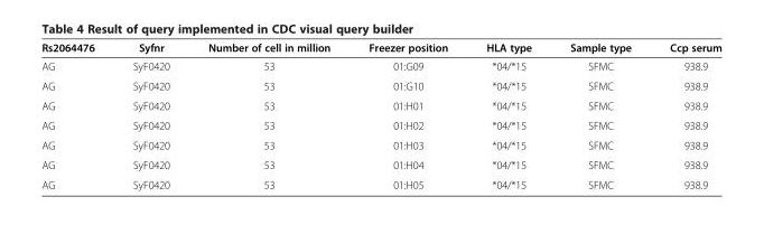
<table><thead><tr><td>Rs2064476</td><td>Syfnr</td><td>Number of cell in million</td><td>Freezer position</td><td>HLA type</td><td>Sample type</td><td>Ccp serum</td></tr></thead><tbody><tr><td>AG</td><td>SyF0420</td><td>53</td><td>01:G09</td><td>*04/*15</td><td>SFMC</td><td>938.9</td></tr><tr><td>AG</td><td>SyF0420</td><td>53</td><td>01:G10</td><td>*04/*15</td><td>SFMC</td><td>938.9</td></tr><tr><td>AG</td><td>SyF0420</td><td>53</td><td>01:H01</td><td>*04/*15</td><td>SFMC</td><td>938.9</td></tr><tr><td>AG</td><td>SyF0420</td><td>53</td><td>01:H02</td><td>*04/*15</td><td>SFMC</td><td>938.9</td></tr><tr><td>AG</td><td>SyF0420</td><td>53</td><td>01:H03</td><td>*04/*15</td><td>SFMC</td><td>938.9</td></tr><tr><td>AG</td><td>SyF0420</td><td>53</td><td>01:H04</td><td>*04/*15</td><td>SFMC</td><td>938.9</td></tr><tr><td>AG</td><td>SyF0420</td><td>53</td><td>01:H05</td><td>*04/*15</td><td>SFMC</td><td>938.9</td></tr></tbody></table>